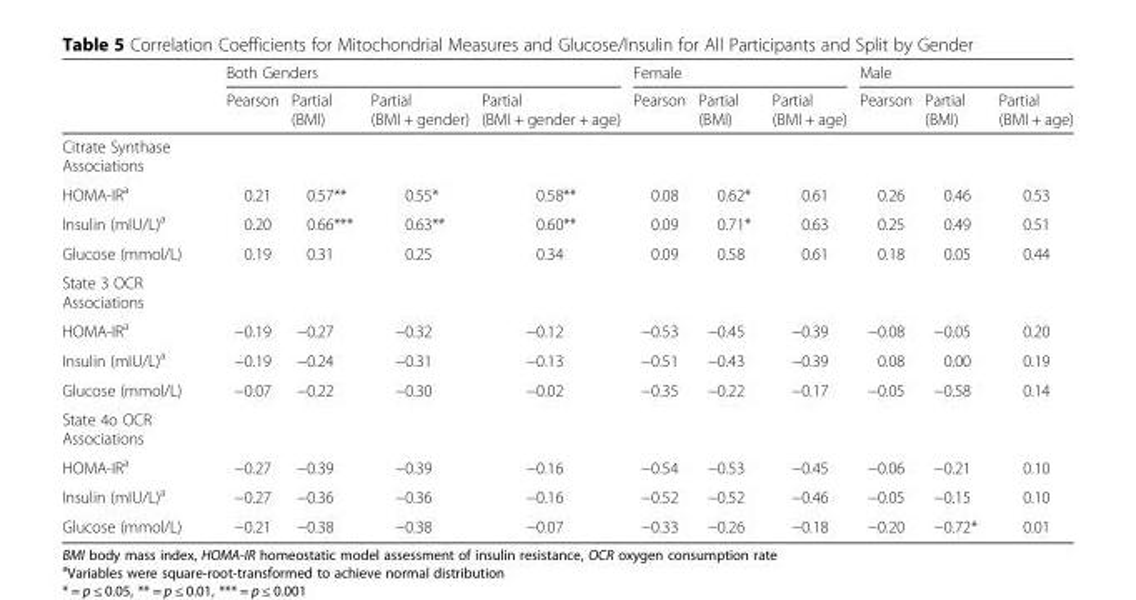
<table><thead><tr><td rowspan="2"></td><td colspan="4">Both Genders</td><td colspan="3">Female</td><td colspan="3">Male</td></tr><tr><td>Pearson</td><td>Partial (BMI)</td><td>Partial (BMI + gender)</td><td>Partial (BMI + gender + age)</td><td>Pearson</td><td>Partial (BMI)</td><td>Partial (BMI + age)</td><td>Pearson</td><td>Partial (BMI)</td><td>Partial (BMI + age)</td></tr></thead><tbody><tr><td colspan="11">Citrate Synthase Associations</td></tr><tr><td>HOMA-IR<sup>a</sup></td><td>0.21</td><td>0.57**</td><td>0.55*</td><td>0.58**</td><td>0.08</td><td>0.62*</td><td>0.61</td><td>0.26</td><td>0.46</td><td>0.53</td></tr><tr><td>Insulin (mIU/L)<sup>a</sup></td><td>0.20</td><td>0.66***</td><td>0.63**</td><td>0.60**</td><td>0.09</td><td>0.71*</td><td>0.63</td><td>0.25</td><td>0.49</td><td>0.51</td></tr><tr><td>Glucose (mmol/L)</td><td>0.19</td><td>0.31</td><td>0.25</td><td>0.34</td><td>0.09</td><td>0.58</td><td>0.61</td><td>0.18</td><td>0.05</td><td>0.44</td></tr><tr><td colspan="11">State 3 OCR Associations</td></tr><tr><td>HOMA-IR<sup>a</sup></td><td>−0.19</td><td>−0.27</td><td>−0.32</td><td>−0.12</td><td>−0.53</td><td>−0.45</td><td>−0.39</td><td>−0.08</td><td>−0.05</td><td>0.20</td></tr><tr><td>Insulin (mIU/L)<sup>a</sup></td><td>−0.19</td><td>−0.24</td><td>−0.31</td><td>−0.13</td><td>−0.51</td><td>−0.43</td><td>−0.39</td><td>0.08</td><td>0.00</td><td>0.19</td></tr><tr><td>Glucose (mmol/L)</td><td>−0.07</td><td>−0.22</td><td>−0.30</td><td>−0.02</td><td>−0.35</td><td>−0.22</td><td>−0.17</td><td>−0.05</td><td>−0.58</td><td>0.14</td></tr><tr><td colspan="11">State 4o OCR Associations</td></tr><tr><td>HOMA-IR<sup>a</sup></td><td>−0.27</td><td>−0.39</td><td>−0.39</td><td>−0.16</td><td>−0.54</td><td>−0.53</td><td>−0.45</td><td>−0.06</td><td>−0.21</td><td>0.10</td></tr><tr><td>Insulin (mIU/L)<sup>a</sup></td><td>−0.27</td><td>−0.36</td><td>−0.36</td><td>−0.16</td><td>−0.52</td><td>−0.52</td><td>−0.46</td><td>−0.05</td><td>−0.15</td><td>0.10</td></tr><tr><td>Glucose (mmol/L)</td><td>−0.21</td><td>−0.38</td><td>−0.38</td><td>−0.07</td><td>−0.33</td><td>−0.26</td><td>−0.18</td><td>−0.20</td><td>−0.72*</td><td>0.01</td></tr></tbody></table>